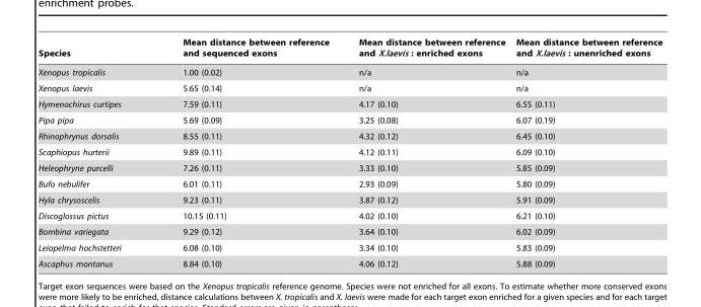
<table><thead><tr><td>Species</td><td>Mean distance between reference and sequenced exons</td><td>Mean distance between reference and X.laevis : enriched exons</td><td>Mean distance between reference and X.laevis : unenriched exons</td></tr></thead><tbody><tr><td>Xenopus tropicalis</td><td>1.00 (0.02)</td><td>n/a</td><td>n/a</td></tr><tr><td>Xenopus laevis</td><td>5.65 (0.14)</td><td>n/a</td><td>n/a</td></tr><tr><td>Hymenochirus curtipes</td><td>7.59 (0.11)</td><td>4.17 (0.10)</td><td>6.55 (0.11)</td></tr><tr><td>Pipa pipa</td><td>5.69 (0.09)</td><td>3.25 (0.08)</td><td>6.07 (0.19)</td></tr><tr><td>Rhinophrynus dorsalis</td><td>8.55 (0.11)</td><td>4.32 (0.12)</td><td>6.45 (0.10)</td></tr><tr><td>Scaphiopus hurterii</td><td>9.89 (0.11)</td><td>4.12 (0.11)</td><td>6.09 (0.10)</td></tr><tr><td>Heleophryne purcelli</td><td>7.26 (0.11)</td><td>3.33 (0.10)</td><td>5.85 (0.09)</td></tr><tr><td>Bufo nebulifer</td><td>6.01 (0.11)</td><td>2.93 (0.09)</td><td>5.80 (0.09)</td></tr><tr><td>Hyla chrysoscelis</td><td>9.23 (0.11)</td><td>3.87 (0.12)</td><td>5.91 (0.09)</td></tr><tr><td>Discoglossus pictus</td><td>10.15 (0.11)</td><td>4.02 (0.10)</td><td>6.21 (0.10)</td></tr><tr><td>Bombina variegata</td><td>9.29 (0.12)</td><td>3.64 (0.10)</td><td>6.02 (0.09)</td></tr><tr><td>Leiopelma hochstetteri</td><td>6.08 (0.10)</td><td>3.34 (0.10)</td><td>5.83 (0.09)</td></tr><tr><td>Ascaphus montanus</td><td>8.84 (0.10)</td><td>4.06 (0.12)</td><td>5.88 (0.09)</td></tr></tbody></table>